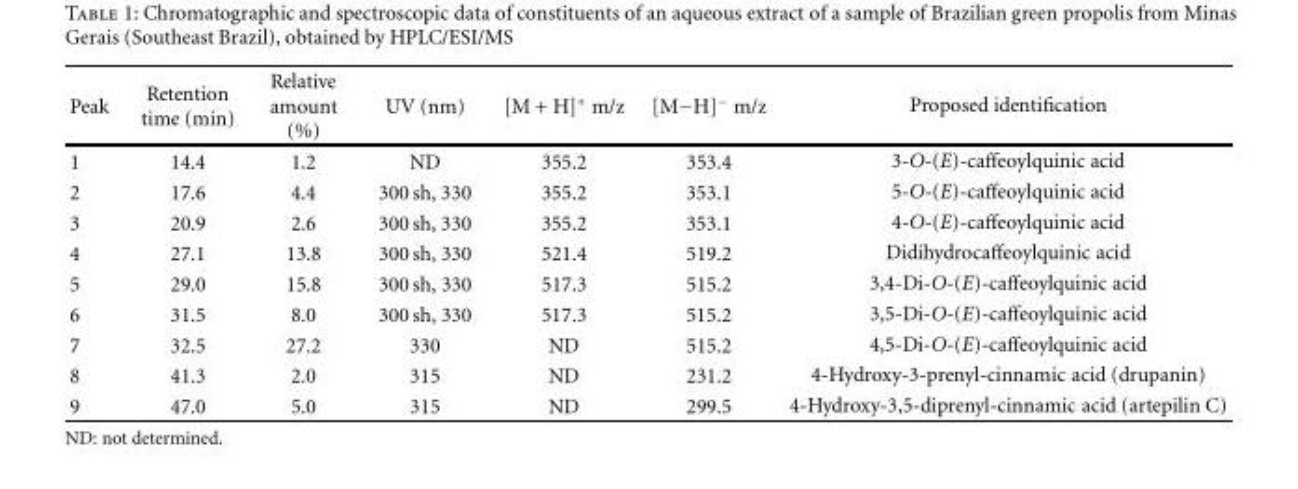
<table><thead><tr><td>Peak</td><td>Retention time (min)</td><td>Relative amount (%)</td><td>UV (nm)</td><td>[M + H]<sup>+</sup> m/z</td><td>[M−H]<sup>−</sup> m/z</td><td>Proposed identification</td></tr></thead><tbody><tr><td>1</td><td>14.4</td><td>1.2</td><td>ND</td><td>355.2</td><td>353.4</td><td>3-O-(E)-caffeoylquinic acid</td></tr><tr><td>2</td><td>17.6</td><td>4.4</td><td>300 sh, 330</td><td>355.2</td><td>353.1</td><td>5-O-(E)-caffeoylquinic acid</td></tr><tr><td>3</td><td>20.9</td><td>2.6</td><td>300 sh, 330</td><td>355.2</td><td>353.1</td><td>4-O-(E)-caffeoylquinic acid</td></tr><tr><td>4</td><td>27.1</td><td>13.8</td><td>300 sh, 330</td><td>521.4</td><td>519.2</td><td>Didihydrocaffeoylquinic acid</td></tr><tr><td>5</td><td>29.0</td><td>15.8</td><td>300 sh, 330</td><td>517.3</td><td>515.2</td><td>3,4-Di-O-(E)-caffeoylquinic acid</td></tr><tr><td>6</td><td>31.5</td><td>8.0</td><td>300 sh, 330</td><td>517.3</td><td>515.2</td><td>3,5-Di-O-(E)-caffeoylquinic acid</td></tr><tr><td>7</td><td>32.5</td><td>27.2</td><td>330</td><td>ND</td><td>515.2</td><td>4,5-Di-O-(E)-caffeoylquinic acid</td></tr><tr><td>8</td><td>41.3</td><td>2.0</td><td>315</td><td>ND</td><td>231.2</td><td>4-Hydroxy-3-prenyl-cinnamic acid (drupanin)</td></tr><tr><td>9</td><td>47.0</td><td>5.0</td><td>315</td><td>ND</td><td>299.5</td><td>4-Hydroxy-3,5-diprenyl-cinnamic acid (artepilin C)</td></tr></tbody></table>